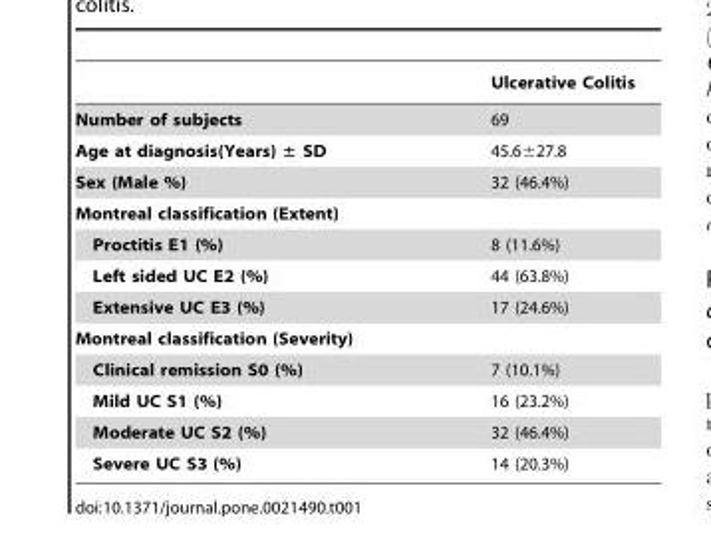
<table><thead><tr><td></td><td>Ulcerative Colitis</td></tr></thead><tbody><tr><td>Number of subjects</td><td>69</td></tr><tr><td>Age at diagnosis(Years) ± SD</td><td>45.6±27.8</td></tr><tr><td>Sex (Male %)</td><td>32 (46.4%)</td></tr><tr><td colspan="2">Montreal classification (Extent)</td></tr><tr><td>Proctitis E1 (%)</td><td>8 (11.6%)</td></tr><tr><td>Left sided UC E2 (%)</td><td>44 (63.8%)</td></tr><tr><td>Extensive UC E3 (%)</td><td>17 (24.6%)</td></tr><tr><td colspan="2">Montreal classification (Severity)</td></tr><tr><td>Clinical remission S0 (%)</td><td>7 (10.1%)</td></tr><tr><td>Mild UC S1 (%)</td><td>16 (23.2%)</td></tr><tr><td>Moderate UC S2 (%)</td><td>32 (46.4%)</td></tr><tr><td>Severe UC S3 (%)</td><td>14 (20.3%)</td></tr></tbody></table>